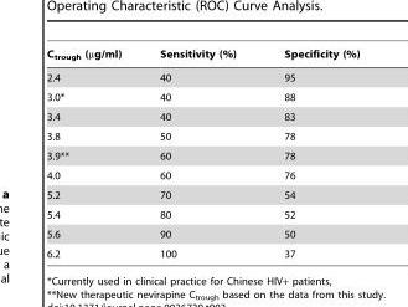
<table><thead><tr><td>C<sub>trough</sub> (µg/ml)</td><td>Sensitivity (%)</td><td>Specificity (%)</td></tr></thead><tbody><tr><td>2.4</td><td>40</td><td>95</td></tr><tr><td>3.0*</td><td>40</td><td>88</td></tr><tr><td>3.4</td><td>40</td><td>83</td></tr><tr><td>3.8</td><td>50</td><td>78</td></tr><tr><td>3.9**</td><td>60</td><td>78</td></tr><tr><td>4.0</td><td>60</td><td>76</td></tr><tr><td>5.2</td><td>70</td><td>54</td></tr><tr><td>5.4</td><td>80</td><td>52</td></tr><tr><td>5.6</td><td>90</td><td>50</td></tr><tr><td>6.2</td><td>100</td><td>37</td></tr></tbody></table>